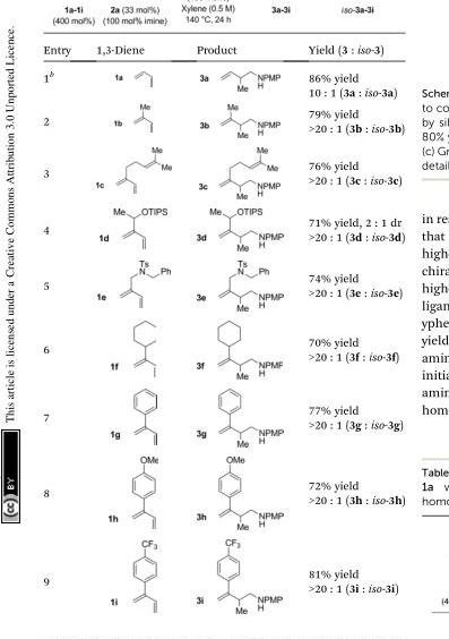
<table><thead><tr><td>Entry</td><td>1,3-Diene</td><td>Product</td><td>Yield (3 : iso-3)</td></tr></thead><tbody><tr><td>1<sup>b</sup></td><td></td><td></td><td>86% yield 10 : 1 (3a : iso-3a)</td></tr><tr><td>2</td><td></td><td></td><td>79% yield &gt;20 : 1 (3b : iso-3b)</td></tr><tr><td>3</td><td></td><td></td><td>76% yield &gt;20 : 1 (3c : iso-3c)</td></tr><tr><td>4</td><td></td><td></td><td>71% yield, 2 : 1 dr &gt;20 : 1 (3d : iso-3d)</td></tr><tr><td>5</td><td></td><td></td><td>74% yield &gt;20 : 1 (3e : iso-3e)</td></tr><tr><td>6</td><td></td><td></td><td>70% yield &gt;20 : 1 (3f : iso-3f)</td></tr><tr><td>7</td><td></td><td></td><td>77% yield &gt;20 : 1 (3g : iso-3g)</td></tr><tr><td>8</td><td></td><td></td><td>72% yield &gt;20 : 1 (3h : iso-3h)</td></tr><tr><td>9</td><td></td><td></td><td>81% yield &gt;20 : 1 (3i : iso-3i)</td></tr></tbody></table>